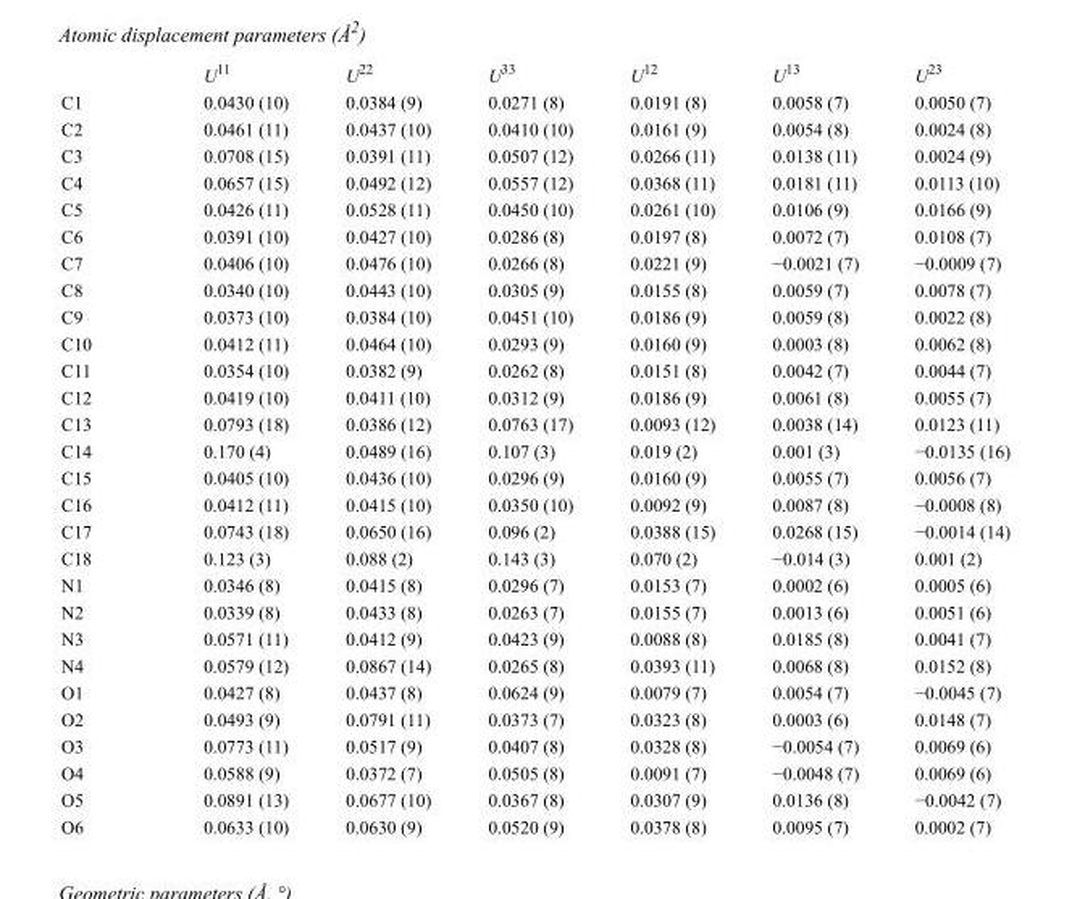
<table><thead><tr><td></td><td>U<sup>11</sup></td><td>U<sup>22</sup></td><td>U<sup>33</sup></td><td>U<sup>12</sup></td><td>U<sup>13</sup></td><td>U<sup>23</sup></td></tr></thead><tbody><tr><td>C1</td><td>0.0430 (10)</td><td>0.0384 (9)</td><td>0.0271 (8)</td><td>0.0191 (8)</td><td>0.0058 (7)</td><td>0.0050 (7)</td></tr><tr><td>C2</td><td>0.0461 (11)</td><td>0.0437 (10)</td><td>0.0410 (10)</td><td>0.0161 (9)</td><td>0.0054 (8)</td><td>0.0024 (8)</td></tr><tr><td>C3</td><td>0.0708 (15)</td><td>0.0391 (11)</td><td>0.0507 (12)</td><td>0.0266 (11)</td><td>0.0138 (11)</td><td>0.0024 (9)</td></tr><tr><td>C4</td><td>0.0657 (15)</td><td>0.0492 (12)</td><td>0.0557 (12)</td><td>0.0368 (11)</td><td>0.0181 (11)</td><td>0.0113 (10)</td></tr><tr><td>C5</td><td>0.0426 (11)</td><td>0.0528 (11)</td><td>0.0450 (10)</td><td>0.0261 (10)</td><td>0.0106 (9)</td><td>0.0166 (9)</td></tr><tr><td>C6</td><td>0.0391 (10)</td><td>0.0427 (10)</td><td>0.0286 (8)</td><td>0.0197 (8)</td><td>0.0072 (7)</td><td>0.0108 (7)</td></tr><tr><td>C7</td><td>0.0406 (10)</td><td>0.0476 (10)</td><td>0.0266 (8)</td><td>0.0221 (9)</td><td>−0.0021 (7)</td><td>−0.0009 (7)</td></tr><tr><td>C8</td><td>0.0340 (10)</td><td>0.0443 (10)</td><td>0.0305 (9)</td><td>0.0155 (8)</td><td>0.0059 (7)</td><td>0.0078 (7)</td></tr><tr><td>C9</td><td>0.0373 (10)</td><td>0.0384 (10)</td><td>0.0451 (10)</td><td>0.0186 (9)</td><td>0.0059 (8)</td><td>0.0022 (8)</td></tr><tr><td>C10</td><td>0.0412 (11)</td><td>0.0464 (10)</td><td>0.0293 (9)</td><td>0.0160 (9)</td><td>0.0003 (8)</td><td>0.0062 (8)</td></tr><tr><td>C11</td><td>0.0354 (10)</td><td>0.0382 (9)</td><td>0.0262 (8)</td><td>0.0151 (8)</td><td>0.0042 (7)</td><td>0.0044 (7)</td></tr><tr><td>C12</td><td>0.0419 (10)</td><td>0.0411 (10)</td><td>0.0312 (9)</td><td>0.0186 (9)</td><td>0.0061 (8)</td><td>0.0055 (7)</td></tr><tr><td>C13</td><td>0.0793 (18)</td><td>0.0386 (12)</td><td>0.0763 (17)</td><td>0.0093 (12)</td><td>0.0038 (14)</td><td>0.0123 (11)</td></tr><tr><td>C14</td><td>0.170 (4)</td><td>0.0489 (16)</td><td>0.107 (3)</td><td>0.019 (2)</td><td>0.001 (3)</td><td>−0.0135 (16)</td></tr><tr><td>C15</td><td>0.0405 (10)</td><td>0.0436 (10)</td><td>0.0296 (9)</td><td>0.0160 (9)</td><td>0.0055 (7)</td><td>0.0056 (7)</td></tr><tr><td>C16</td><td>0.0412 (11)</td><td>0.0415 (10)</td><td>0.0350 (10)</td><td>0.0092 (9)</td><td>0.0087 (8)</td><td>−0.0008 (8)</td></tr><tr><td>C17</td><td>0.0743 (18)</td><td>0.0650 (16)</td><td>0.096 (2)</td><td>0.0388 (15)</td><td>0.0268 (15)</td><td>−0.0014 (14)</td></tr><tr><td>C18</td><td>0.123 (3)</td><td>0.088 (2)</td><td>0.143 (3)</td><td>0.070 (2)</td><td>−0.014 (3)</td><td>0.001 (2)</td></tr><tr><td>N1</td><td>0.0346 (8)</td><td>0.0415 (8)</td><td>0.0296 (7)</td><td>0.0153 (7)</td><td>0.0002 (6)</td><td>0.0005 (6)</td></tr><tr><td>N2</td><td>0.0339 (8)</td><td>0.0433 (8)</td><td>0.0263 (7)</td><td>0.0155 (7)</td><td>0.0013 (6)</td><td>0.0051 (6)</td></tr><tr><td>N3</td><td>0.0571 (11)</td><td>0.0412 (9)</td><td>0.0423 (9)</td><td>0.0088 (8)</td><td>0.0185 (8)</td><td>0.0041 (7)</td></tr><tr><td>N4</td><td>0.0579 (12)</td><td>0.0867 (14)</td><td>0.0265 (8)</td><td>0.0393 (11)</td><td>0.0068 (8)</td><td>0.0152 (8)</td></tr><tr><td>O1</td><td>0.0427 (8)</td><td>0.0437 (8)</td><td>0.0624 (9)</td><td>0.0079 (7)</td><td>0.0054 (7)</td><td>−0.0045 (7)</td></tr><tr><td>O2</td><td>0.0493 (9)</td><td>0.0791 (11)</td><td>0.0373 (7)</td><td>0.0323 (8)</td><td>0.0003 (6)</td><td>0.0148 (7)</td></tr><tr><td>O3</td><td>0.0773 (11)</td><td>0.0517 (9)</td><td>0.0407 (8)</td><td>0.0328 (8)</td><td>−0.0054 (7)</td><td>0.0069 (6)</td></tr><tr><td>O4</td><td>0.0588 (9)</td><td>0.0372 (7)</td><td>0.0505 (8)</td><td>0.0091 (7)</td><td>−0.0048 (7)</td><td>0.0069 (6)</td></tr><tr><td>O5</td><td>0.0891 (13)</td><td>0.0677 (10)</td><td>0.0367 (8)</td><td>0.0307 (9)</td><td>0.0136 (8)</td><td>−0.0042 (7)</td></tr><tr><td>O6</td><td>0.0633 (10)</td><td>0.0630 (9)</td><td>0.0520 (9)</td><td>0.0378 (8)</td><td>0.0095 (7)</td><td>0.0002 (7)</td></tr></tbody></table>